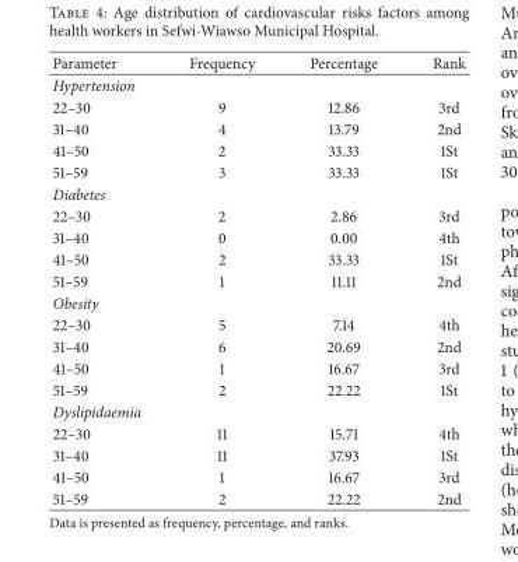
<table><thead><tr><td>Parameter</td><td>Frequency</td><td>Percentage</td><td>Rank</td></tr></thead><tbody><tr><td colspan="4">Hypertension</td></tr><tr><td>22–30</td><td>9</td><td>12.86</td><td>3rd</td></tr><tr><td>31–40</td><td>4</td><td>13.79</td><td>2nd</td></tr><tr><td>41–50</td><td>2</td><td>33.33</td><td>1St</td></tr><tr><td>51–59</td><td>3</td><td>33.33</td><td>1St</td></tr><tr><td colspan="4">Diabetes</td></tr><tr><td>22–30</td><td>2</td><td>2.86</td><td>3rd</td></tr><tr><td>31–40</td><td>0</td><td>0.00</td><td>4th</td></tr><tr><td>41–50</td><td>2</td><td>33.33</td><td>1St</td></tr><tr><td>51–59</td><td>1</td><td>11.11</td><td>2nd</td></tr><tr><td colspan="4">Obesity</td></tr><tr><td>22–30</td><td>5</td><td>7.14</td><td>4th</td></tr><tr><td>31–40</td><td>6</td><td>20.69</td><td>2nd</td></tr><tr><td>41–50</td><td>1</td><td>16.67</td><td>3rd</td></tr><tr><td>51–59</td><td>2</td><td>22.22</td><td>1St</td></tr><tr><td colspan="4">Dyslipidaemia</td></tr><tr><td>22–30</td><td>11</td><td>15.71</td><td>4th</td></tr><tr><td>31–40</td><td>11</td><td>37.93</td><td>1St</td></tr><tr><td>41–50</td><td>1</td><td>16.67</td><td>3rd</td></tr><tr><td>51–59</td><td>2</td><td>22.22</td><td>2nd</td></tr></tbody></table>